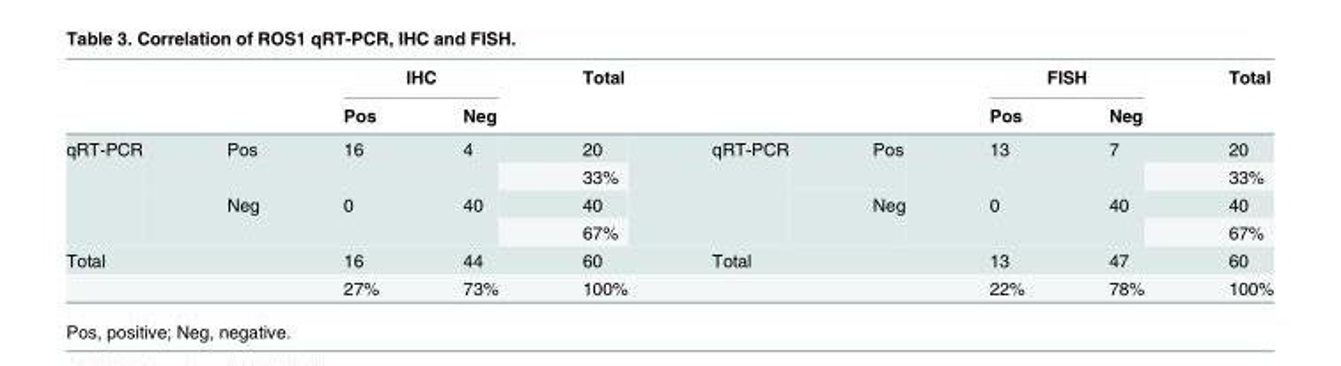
<table><thead><tr><td rowspan="2"></td><td rowspan="2"></td><td colspan="2">IHC</td><td rowspan="2">Total</td><td rowspan="2"></td><td rowspan="2"></td><td colspan="2">FISH</td><td rowspan="2">Total</td></tr><tr><td>Pos</td><td>Neg</td><td>Pos</td><td>Neg</td></tr></thead><tbody><tr><td rowspan="4">qRT-PCR</td><td rowspan="2">Pos</td><td rowspan="2">16</td><td rowspan="2">4</td><td>20</td><td rowspan="4">qRT-PCR</td><td rowspan="2">Pos</td><td rowspan="2">13</td><td rowspan="2">7</td><td>20</td></tr><tr><td>33%</td><td>33%</td></tr><tr><td rowspan="2">Neg</td><td rowspan="2">0</td><td rowspan="2">40</td><td>40</td><td rowspan="2">Neg</td><td rowspan="2">0</td><td rowspan="2">40</td><td>40</td></tr><tr><td>67%</td><td>67%</td></tr><tr><td rowspan="2" colspan="2">Total</td><td>16</td><td>44</td><td>60</td><td colspan="2">Total</td><td>13</td><td>47</td><td>60</td></tr><tr><td>27%</td><td>73%</td><td>100%</td><td colspan="2"></td><td>22%</td><td>78%</td><td>100%</td></tr></tbody></table>